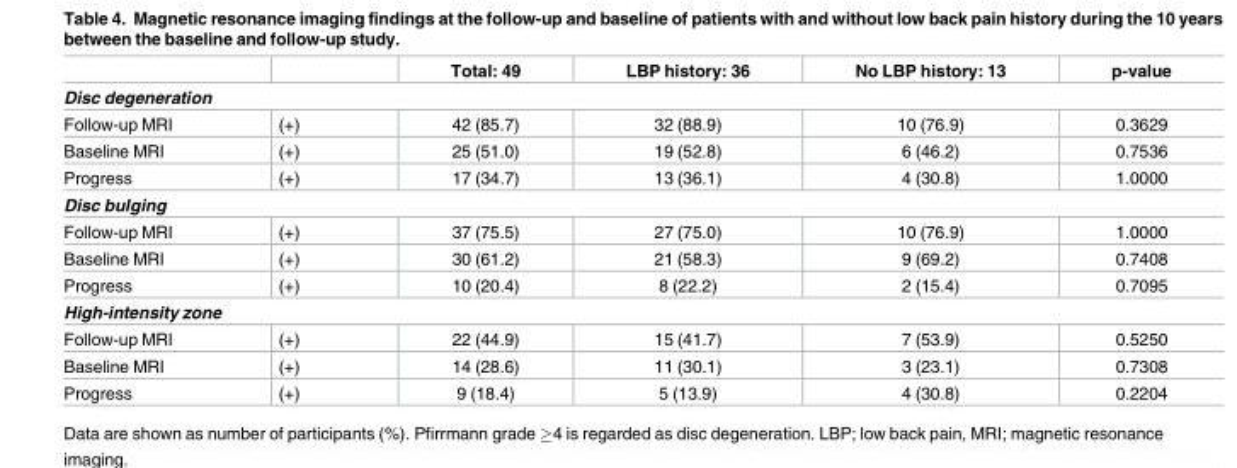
<table><thead><tr><td></td><td></td><td>Total: 49</td><td>LBP history: 36</td><td>No LBP history: 13</td><td>p-value</td></tr></thead><tbody><tr><td colspan="6">Disc degeneration</td></tr><tr><td>Follow-up MRI</td><td>(+)</td><td>42 (85.7)</td><td>32 (88.9)</td><td>10 (76.9)</td><td>0.3629</td></tr><tr><td>Baseline MRI</td><td>(+)</td><td>25 (51.0)</td><td>19 (52.8)</td><td>6 (46.2)</td><td>0.7536</td></tr><tr><td>Progress</td><td>(+)</td><td>17 (34.7)</td><td>13 (36.1)</td><td>4 (30.8)</td><td>1.0000</td></tr><tr><td colspan="6">Disc bulging</td></tr><tr><td>Follow-up MRI</td><td>(+)</td><td>37 (75.5)</td><td>27 (75.0)</td><td>10 (76.9)</td><td>1.0000</td></tr><tr><td>Baseline MRI</td><td>(+)</td><td>30 (61.2)</td><td>21 (58.3)</td><td>9 (69.2)</td><td>0.7408</td></tr><tr><td>Progress</td><td>(+)</td><td>10 (20.4)</td><td>8 (22.2)</td><td>2 (15.4)</td><td>0.7095</td></tr><tr><td colspan="6">High-intensity zone</td></tr><tr><td>Follow-up MRI</td><td>(+)</td><td>22 (44.9)</td><td>15 (41.7)</td><td>7 (53.9)</td><td>0.5250</td></tr><tr><td>Baseline MRI</td><td>(+)</td><td>14 (28.6)</td><td>11 (30.1)</td><td>3 (23.1)</td><td>0.7308</td></tr><tr><td>Progress</td><td>(+)</td><td>9 (18.4)</td><td>5 (13.9)</td><td>4 (30.8)</td><td>0.2204</td></tr></tbody></table>